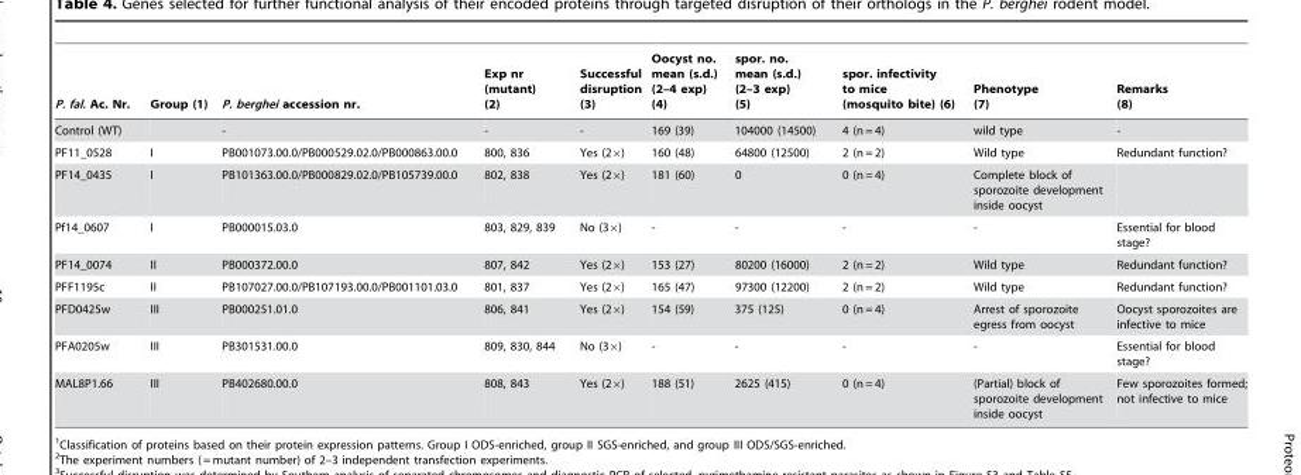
<table><thead><tr><td>P. fal. Ac. Nr.</td><td>Group (1)</td><td>P. berghei accession nr.</td><td>Exp nr (mutant) (2)</td><td>Successful disruption (3)</td><td>Oocyst no. mean (s.d.) (2–4 exp) (4)</td><td>spor. no. mean (s.d.) (2–3 exp) (5)</td><td>spor. infectivity to mice (mosquito bite) (6)</td><td>Phenotype (7)</td><td>Remarks (8)</td></tr></thead><tbody><tr><td>Control (WT)</td><td></td><td>-</td><td>-</td><td>-</td><td>169 (39)</td><td>104000 (14500)</td><td>4 (n = 4)</td><td>wild type</td><td>-</td></tr><tr><td>PF11_0528</td><td>I</td><td>PB001073.00.0/PB000529.02.0/PB000863.00.0</td><td>800, 836</td><td>Yes (2×)</td><td>160 (48)</td><td>64800 (12500)</td><td>2 (n = 2)</td><td>Wild type</td><td>Redundant function?</td></tr><tr><td>PF14_0435</td><td>I</td><td>PB101363.00.0/PB000829.02.0/PB105739.00.0</td><td>802, 838</td><td>Yes (2×)</td><td>181 (60)</td><td>0</td><td>0 (n = 4)</td><td>Complete block of sporozoite development inside oocyst</td><td></td></tr><tr><td>Pf14_0607</td><td>I</td><td>PB000015.03.0</td><td>803, 829, 839</td><td>No (3×)</td><td>-</td><td>-</td><td>-</td><td>-</td><td>Essential for blood stage?</td></tr><tr><td>PF14_0074</td><td>II</td><td>PB000372.00.0</td><td>807, 842</td><td>Yes (2×)</td><td>153 (27)</td><td>80200 (16000)</td><td>2 (n = 2)</td><td>Wild type</td><td>Redundant function?</td></tr><tr><td>PFF1195c</td><td>II</td><td>PB107027.00.0/PB107193.00.0/PB001101.03.0</td><td>801, 837</td><td>Yes (2×)</td><td>165 (47)</td><td>97300 (12200)</td><td>2 (n = 2)</td><td>Wild type</td><td>Redundant function?</td></tr><tr><td>PFD0425w</td><td>III</td><td>PB000251.01.0</td><td>806, 841</td><td>Yes (2×)</td><td>154 (59)</td><td>375 (125)</td><td>0 (n = 4)</td><td>Arrest of sporozoite egress from oocyst</td><td>Oocyst sporozoites are infective to mice</td></tr><tr><td>PFA0205w</td><td>III</td><td>PB301531.00.0</td><td>809, 830, 844</td><td>No (3×)</td><td>-</td><td>-</td><td>-</td><td>-</td><td>Essential for blood stage?</td></tr><tr><td>MAL8P1.66</td><td>III</td><td>PB402680.00.0</td><td>808, 843</td><td>Yes (2×)</td><td>188 (51)</td><td>2625 (415)</td><td>0 (n = 4)</td><td>(Partial) block of sporozoite development inside oocyst</td><td>Few sporozoites formed; not infective to mice</td></tr></tbody></table>